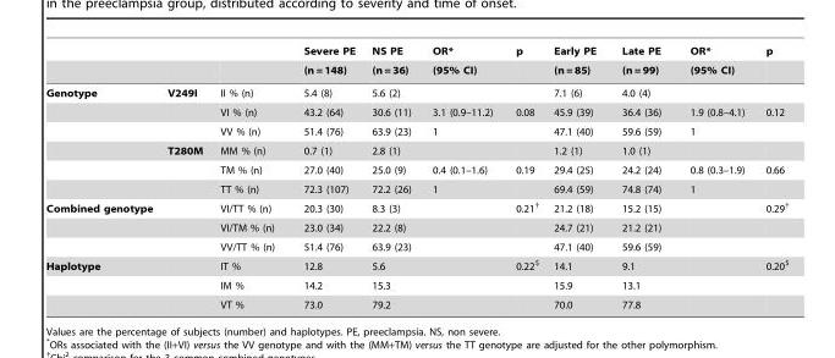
<table><thead><tr><td rowspan="2"></td><td rowspan="2"></td><td rowspan="2"></td><td rowspan="2">Severe PE (n = 148)</td><td rowspan="2">NS PE (n = 36)</td><td rowspan="2">OR* (95% CI)</td><td rowspan="2">p</td><td rowspan="2">Early PE (n = 85)</td><td rowspan="2">Late PE (n = 99)</td><td rowspan="2">OR* (95% CI)</td><td rowspan="2">p</td></tr><tr></tr></thead><tbody><tr><td rowspan="6">Genotype</td><td>V249I</td><td>II % (n)</td><td>5.4 (8)</td><td>5.6 (2)</td><td></td><td></td><td>7.1 (6)</td><td>4.0 (4)</td><td></td><td></td></tr><tr><td></td><td>VI % (n)</td><td>43.2 (64)</td><td>30.6 (11)</td><td>3.1 (0.9–11.2)</td><td>0.08</td><td>45.9 (39)</td><td>36.4 (36)</td><td>1.9 (0.8–4.1)</td><td>0.12</td></tr><tr><td></td><td>VV % (n)</td><td>51.4 (76)</td><td>63.9 (23)</td><td>1</td><td></td><td>47.1 (40)</td><td>59.6 (59)</td><td>1</td><td></td></tr><tr><td>T280M</td><td>MM % (n)</td><td>0.7 (1)</td><td>2.8 (1)</td><td></td><td></td><td>1.2 (1)</td><td>1.0 (1)</td><td></td><td></td></tr><tr><td></td><td>TM % (n)</td><td>27.0 (40)</td><td>25.0 (9)</td><td>0.4 (0.1–1.6)</td><td>0.19</td><td>29.4 (25)</td><td>24.2 (24)</td><td>0.8 (0.3–1.9)</td><td>0.66</td></tr><tr><td></td><td>TT % (n)</td><td>72.3 (107)</td><td>72.2 (26)</td><td>1</td><td></td><td>69.4 (59)</td><td>74.8 (74)</td><td>1</td><td></td></tr><tr><td rowspan="3">Combined genotype</td><td></td><td>VI/TT % (n)</td><td>20.3 (30)</td><td>8.3 (3)</td><td></td><td>0.21†</td><td>21.2 (18)</td><td>15.2 (15)</td><td></td><td>0.29†</td></tr><tr><td></td><td>VI/TM % (n)</td><td>23.0 (34)</td><td>22.2 (8)</td><td></td><td></td><td>24.7 (21)</td><td>21.2 (21)</td><td></td><td></td></tr><tr><td></td><td>VV/TT % (n)</td><td>51.4 (76)</td><td>63.9 (23)</td><td></td><td></td><td>47.1 (40)</td><td>59.6 (59)</td><td></td><td></td></tr><tr><td rowspan="3">Haplotype</td><td></td><td>IT %</td><td>12.8</td><td>5.6</td><td></td><td>0.22$</td><td>14.1</td><td>9.1</td><td></td><td>0.20$</td></tr><tr><td></td><td>IM %</td><td>14.2</td><td>15.3</td><td></td><td></td><td>15.9</td><td>13.1</td><td></td><td></td></tr><tr><td></td><td>VT %</td><td>73.0</td><td>79.2</td><td></td><td></td><td>70.0</td><td>77.8</td><td></td><td></td></tr></tbody></table>